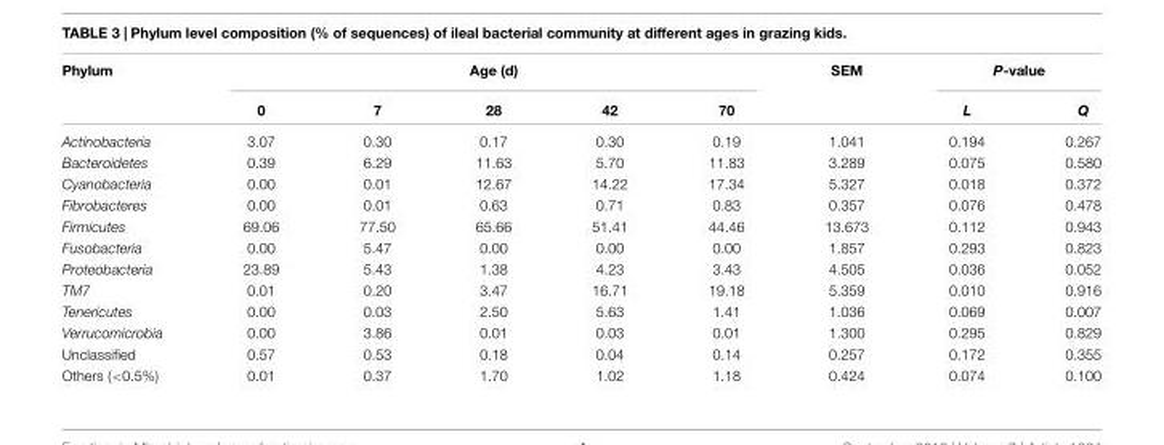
<table><thead><tr><td rowspan="2">Phylum</td><td colspan="5">Age (d)</td><td rowspan="2">SEM</td><td colspan="2">P-value</td></tr><tr><td>0</td><td>7</td><td>28</td><td>42</td><td>70</td><td>L</td><td>Q</td></tr></thead><tbody><tr><td>Actinobacteria</td><td>3.07</td><td>0.30</td><td>0.17</td><td>0.30</td><td>0.19</td><td>1.041</td><td>0.194</td><td>0.267</td></tr><tr><td>Bacteroidetes</td><td>0.39</td><td>6.29</td><td>11.63</td><td>5.70</td><td>11.83</td><td>3.289</td><td>0.075</td><td>0.580</td></tr><tr><td>Cyanobacteria</td><td>0.00</td><td>0.01</td><td>12.67</td><td>14.22</td><td>17.34</td><td>5.327</td><td>0.018</td><td>0.372</td></tr><tr><td>Fibrobacteres</td><td>0.00</td><td>0.01</td><td>0.63</td><td>0.71</td><td>0.83</td><td>0.357</td><td>0.076</td><td>0.478</td></tr><tr><td>Firmicutes</td><td>69.06</td><td>77.50</td><td>65.66</td><td>51.41</td><td>44.46</td><td>13.673</td><td>0.112</td><td>0.943</td></tr><tr><td>Fusobacteria</td><td>0.00</td><td>5.47</td><td>0.00</td><td>0.00</td><td>0.00</td><td>1.857</td><td>0.293</td><td>0.823</td></tr><tr><td>Proteobacteria</td><td>23.89</td><td>5.43</td><td>1.38</td><td>4.23</td><td>3.43</td><td>4.505</td><td>0.036</td><td>0.052</td></tr><tr><td>TM7</td><td>0.01</td><td>0.20</td><td>3.47</td><td>16.71</td><td>19.18</td><td>5.359</td><td>0.010</td><td>0.916</td></tr><tr><td>Tenericutes</td><td>0.00</td><td>0.03</td><td>2.50</td><td>5.63</td><td>1.41</td><td>1.036</td><td>0.069</td><td>0.007</td></tr><tr><td>Verrucomicrobia</td><td>0.00</td><td>3.86</td><td>0.01</td><td>0.03</td><td>0.01</td><td>1.300</td><td>0.295</td><td>0.829</td></tr><tr><td>Unclassified</td><td>0.57</td><td>0.53</td><td>0.18</td><td>0.04</td><td>0.14</td><td>0.257</td><td>0.172</td><td>0.355</td></tr><tr><td>Others (&lt;0.5%)</td><td>0.01</td><td>0.37</td><td>1.70</td><td>1.02</td><td>1.18</td><td>0.424</td><td>0.074</td><td>0.100</td></tr></tbody></table>